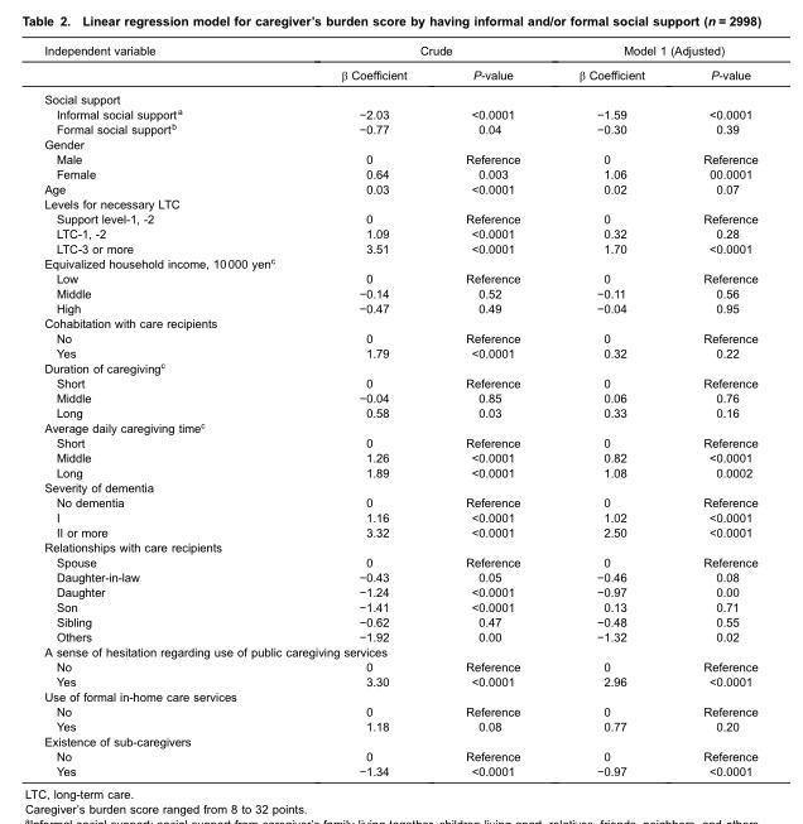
<table><thead><tr><td rowspan="2">Independent variable</td><td colspan="2">Crude</td><td colspan="2">Model 1 (Adjusted)</td></tr><tr><td>β Coefficient</td><td>P-value</td><td>β Coefficient</td><td>P-value</td></tr></thead><tbody><tr><td colspan="5">Social support</td></tr><tr><td>Informal social support<sup>a</sup></td><td>−2.03</td><td>&lt;0.0001</td><td>−1.59</td><td>&lt;0.0001</td></tr><tr><td>Formal social support<sup>b</sup></td><td>−0.77</td><td>0.04</td><td>−0.30</td><td>0.39</td></tr><tr><td colspan="5">Gender</td></tr><tr><td>Male</td><td>0</td><td>Reference</td><td>0</td><td>Reference</td></tr><tr><td>Female</td><td>0.64</td><td>0.003</td><td>1.06</td><td>00.0001</td></tr><tr><td>Age</td><td>0.03</td><td>&lt;0.0001</td><td>0.02</td><td>0.07</td></tr><tr><td colspan="5">Levels for necessary LTC</td></tr><tr><td>Support level-1, -2</td><td>0</td><td>Reference</td><td>0</td><td>Reference</td></tr><tr><td>LTC-1, -2</td><td>1.09</td><td>&lt;0.0001</td><td>0.32</td><td>0.28</td></tr><tr><td>LTC-3 or more</td><td>3.51</td><td>&lt;0.0001</td><td>1.70</td><td>&lt;0.0001</td></tr><tr><td colspan="5">Equivalized household income, 10 000 yen<sup>c</sup></td></tr><tr><td>Low</td><td>0</td><td>Reference</td><td>0</td><td>Reference</td></tr><tr><td>Middle</td><td>−0.14</td><td>0.52</td><td>−0.11</td><td>0.56</td></tr><tr><td>High</td><td>−0.47</td><td>0.49</td><td>−0.04</td><td>0.95</td></tr><tr><td colspan="5">Cohabitation with care recipients</td></tr><tr><td>No</td><td>0</td><td>Reference</td><td>0</td><td>Reference</td></tr><tr><td>Yes</td><td>1.79</td><td>&lt;0.0001</td><td>0.32</td><td>0.22</td></tr><tr><td colspan="5">Duration of caregiving<sup>c</sup></td></tr><tr><td>Short</td><td>0</td><td>Reference</td><td>0</td><td>Reference</td></tr><tr><td>Middle</td><td>−0.04</td><td>0.85</td><td>0.06</td><td>0.76</td></tr><tr><td>Long</td><td>0.58</td><td>0.03</td><td>0.33</td><td>0.16</td></tr><tr><td colspan="5">Average daily caregiving time<sup>c</sup></td></tr><tr><td>Short</td><td>0</td><td>Reference</td><td>0</td><td>Reference</td></tr><tr><td>Middle</td><td>1.26</td><td>&lt;0.0001</td><td>0.82</td><td>&lt;0.0001</td></tr><tr><td>Long</td><td>1.89</td><td>&lt;0.0001</td><td>1.08</td><td>0.0002</td></tr><tr><td colspan="5">Severity of dementia</td></tr><tr><td>No dementia</td><td>0</td><td>Reference</td><td>0</td><td>Reference</td></tr><tr><td>I</td><td>1.16</td><td>&lt;0.0001</td><td>1.02</td><td>&lt;0.0001</td></tr><tr><td>II or more</td><td>3.32</td><td>&lt;0.0001</td><td>2.50</td><td>&lt;0.0001</td></tr><tr><td colspan="5">Relationships with care recipients</td></tr><tr><td>Spouse</td><td>0</td><td>Reference</td><td>0</td><td>Reference</td></tr><tr><td>Daughter-in-law</td><td>−0.43</td><td>0.05</td><td>−0.46</td><td>0.08</td></tr><tr><td>Daughter</td><td>−1.24</td><td>&lt;0.0001</td><td>−0.97</td><td>0.00</td></tr><tr><td>Son</td><td>−1.41</td><td>&lt;0.0001</td><td>0.13</td><td>0.71</td></tr><tr><td>Sibling</td><td>−0.62</td><td>0.47</td><td>−0.48</td><td>0.55</td></tr><tr><td>Others</td><td>−1.92</td><td>0.00</td><td>−1.32</td><td>0.02</td></tr><tr><td colspan="5">A sense of hesitation regarding use of public caregiving services</td></tr><tr><td>No</td><td>0</td><td>Reference</td><td>0</td><td>Reference</td></tr><tr><td>Yes</td><td>3.30</td><td>&lt;0.0001</td><td>2.96</td><td>&lt;0.0001</td></tr><tr><td colspan="5">Use of formal in-home care services</td></tr><tr><td>No</td><td>0</td><td>Reference</td><td>0</td><td>Reference</td></tr><tr><td>Yes</td><td>1.18</td><td>0.08</td><td>0.77</td><td>0.20</td></tr><tr><td colspan="5">Existence of sub-caregivers</td></tr><tr><td>No</td><td>0</td><td>Reference</td><td>0</td><td>Reference</td></tr><tr><td>Yes</td><td>−1.34</td><td>&lt;0.0001</td><td>−0.97</td><td>&lt;0.0001</td></tr></tbody></table>